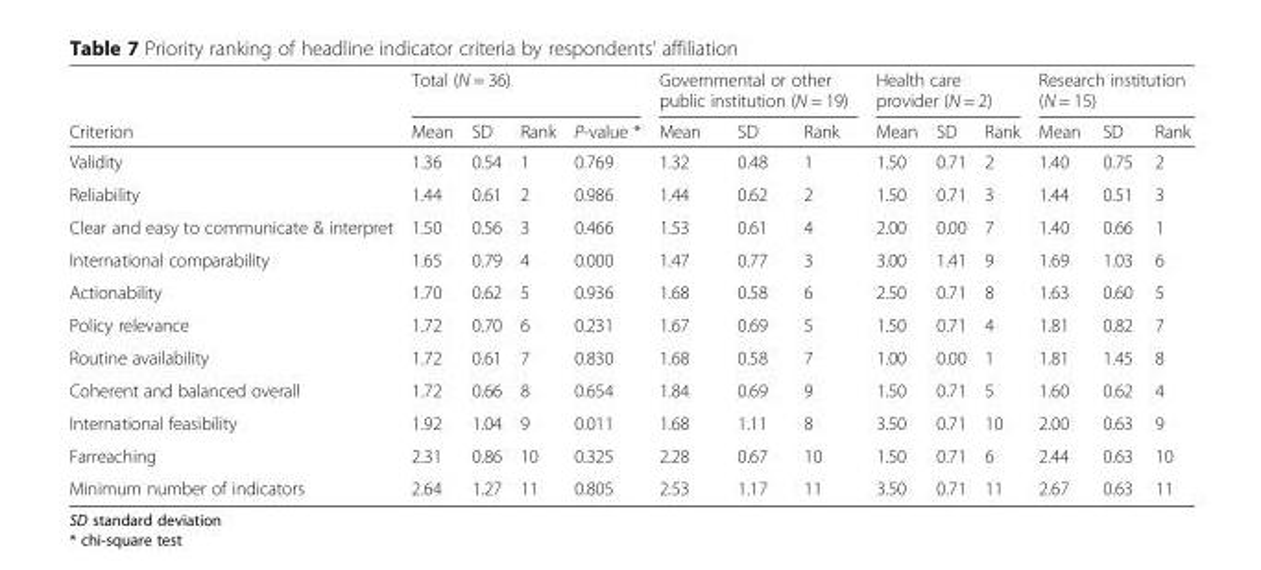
<table><thead><tr><td rowspan="2">Criterion</td><td colspan="4">Total (N = 36)</td><td colspan="3">Governmental or other public institution (N = 19)</td><td colspan="3">Health care provider (N = 2)</td><td colspan="3">Research institution (N = 15)</td></tr><tr><td>Mean</td><td>SD</td><td>Rank</td><td>P-value *</td><td>Mean</td><td>SD</td><td>Rank</td><td>Mean</td><td>SD</td><td>Rank</td><td>Mean</td><td>SD</td><td>Rank</td></tr></thead><tbody><tr><td>Validity</td><td>1.36</td><td>0.54</td><td>1</td><td>0.769</td><td>1.32</td><td>0.48</td><td>1</td><td>1.50</td><td>0.71</td><td>2</td><td>1.40</td><td>0.75</td><td>2</td></tr><tr><td>Reliability</td><td>1.44</td><td>0.61</td><td>2</td><td>0.986</td><td>1.44</td><td>0.62</td><td>2</td><td>1.50</td><td>0.71</td><td>3</td><td>1.44</td><td>0.51</td><td>3</td></tr><tr><td>Clear and easy to communicate &amp; interpret</td><td>1.50</td><td>0.56</td><td>3</td><td>0.466</td><td>1.53</td><td>0.61</td><td>4</td><td>2.00</td><td>0.00</td><td>7</td><td>1.40</td><td>0.66</td><td>1</td></tr><tr><td>International comparability</td><td>1.65</td><td>0.79</td><td>4</td><td>0.000</td><td>1.47</td><td>0.77</td><td>3</td><td>3.00</td><td>1.41</td><td>9</td><td>1.69</td><td>1.03</td><td>6</td></tr><tr><td>Actionability</td><td>1.70</td><td>0.62</td><td>5</td><td>0.936</td><td>1.68</td><td>0.58</td><td>6</td><td>2.50</td><td>0.71</td><td>8</td><td>1.63</td><td>0.60</td><td>5</td></tr><tr><td>Policy relevance</td><td>1.72</td><td>0.70</td><td>6</td><td>0.231</td><td>1.67</td><td>0.69</td><td>5</td><td>1.50</td><td>0.71</td><td>4</td><td>1.81</td><td>0.82</td><td>7</td></tr><tr><td>Routine availability</td><td>1.72</td><td>0.61</td><td>7</td><td>0.830</td><td>1.68</td><td>0.58</td><td>7</td><td>1.00</td><td>0.00</td><td>1</td><td>1.81</td><td>1.45</td><td>8</td></tr><tr><td>Coherent and balanced overall</td><td>1.72</td><td>0.66</td><td>8</td><td>0.654</td><td>1.84</td><td>0.69</td><td>9</td><td>1.50</td><td>0.71</td><td>5</td><td>1.60</td><td>0.62</td><td>4</td></tr><tr><td>International feasibility</td><td>1.92</td><td>1.04</td><td>9</td><td>0.011</td><td>1.68</td><td>1.11</td><td>8</td><td>3.50</td><td>0.71</td><td>10</td><td>2.00</td><td>0.63</td><td>9</td></tr><tr><td>Farreaching</td><td>2.31</td><td>0.86</td><td>10</td><td>0.325</td><td>2.28</td><td>0.67</td><td>10</td><td>1.50</td><td>0.71</td><td>6</td><td>2.44</td><td>0.63</td><td>10</td></tr><tr><td>Minimum number of indicators</td><td>2.64</td><td>1.27</td><td>11</td><td>0.805</td><td>2.53</td><td>1.17</td><td>11</td><td>3.50</td><td>0.71</td><td>11</td><td>2.67</td><td>0.63</td><td>11</td></tr></tbody></table>